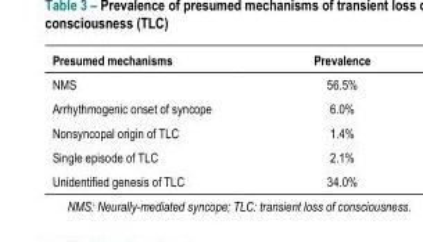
<table><thead><tr><td>Presumed mechanisms</td><td>Prevalence</td></tr></thead><tbody><tr><td>NMS</td><td>56.5%</td></tr><tr><td>Arrhythmogenic onset of syncope</td><td>6.0%</td></tr><tr><td>Nonsyncopal origin of TLC</td><td>1.4%</td></tr><tr><td>Single episode of TLC</td><td>2.1%</td></tr><tr><td>Unidentified genesis of TLC</td><td>34.0%</td></tr></tbody></table>